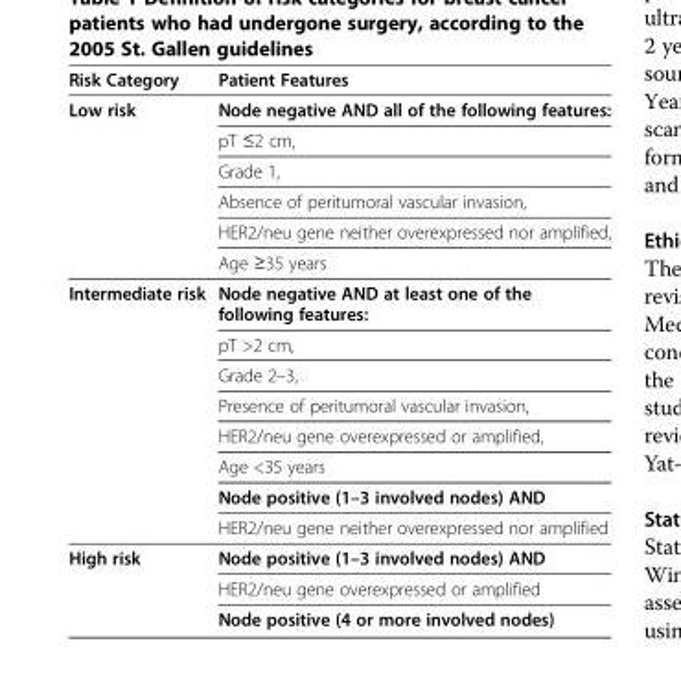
<table><thead><tr><td>Risk Category</td><td>Patient Features</td></tr></thead><tbody><tr><td rowspan="6">Low risk</td><td>Node negative AND all of the following features:</td></tr><tr><td>pT ≤2 cm,</td></tr><tr><td>Grade 1,</td></tr><tr><td>Absence of peritumoral vascular invasion,</td></tr><tr><td>HER2/neu gene neither overexpressed nor amplified,</td></tr><tr><td>Age ≥35 years</td></tr><tr><td rowspan="8">Intermediate risk</td><td>Node negative AND at least one of the following features:</td></tr><tr><td>pT &gt;2 cm,</td></tr><tr><td>Grade 2–3,</td></tr><tr><td>Presence of peritumoral vascular invasion,</td></tr><tr><td>HER2/neu gene overexpressed or amplified,</td></tr><tr><td>Age &lt;35 years</td></tr><tr><td>Node positive (1–3 involved nodes) AND</td></tr><tr><td>HER2/neu gene neither overexpressed nor amplified</td></tr><tr><td rowspan="3">High risk</td><td>Node positive (1–3 involved nodes) AND</td></tr><tr><td>HER2/neu gene overexpressed or amplified</td></tr><tr><td>Node positive (4 or more involved nodes)</td></tr></tbody></table>